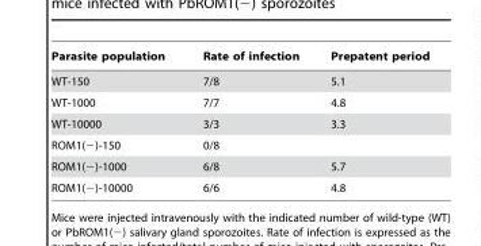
<table><thead><tr><td>Parasite population</td><td>Rate of infection</td><td>Prepatent period</td></tr></thead><tbody><tr><td>WT-150</td><td>7/8</td><td>5.1</td></tr><tr><td>WT-1000</td><td>7/7</td><td>4.8</td></tr><tr><td>WT-10000</td><td>3/3</td><td>3.3</td></tr><tr><td>ROM1(−)-150</td><td>0/8</td><td></td></tr><tr><td>ROM1(−)-1000</td><td>6/8</td><td>5.7</td></tr><tr><td>ROM1(−)-10000</td><td>6/6</td><td>4.8</td></tr></tbody></table>